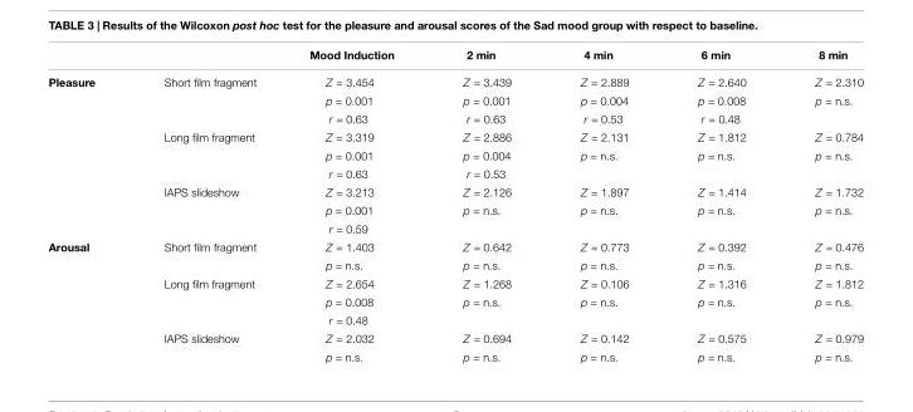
<table><thead><tr><td></td><td></td><td>Mood Induction</td><td>2 min</td><td>4 min</td><td>6 min</td><td>8 min</td></tr></thead><tbody><tr><td rowspan="9">Pleasure</td><td>Short film fragment</td><td>Z = 3.454</td><td>Z = 3.439</td><td>Z = 2.889</td><td>Z = 2.640</td><td>Z = 2.310</td></tr><tr><td></td><td>p = 0.001</td><td>p = 0.001</td><td>p = 0.004</td><td>p = 0.008</td><td>p = n.s.</td></tr><tr><td></td><td>r = 0.63</td><td>r = 0.63</td><td>r = 0.53</td><td>r = 0.48</td><td></td></tr><tr><td>Long film fragment</td><td>Z = 3.319</td><td>Z = 2.886</td><td>Z = 2.131</td><td>Z = 1.812</td><td>Z = 0.784</td></tr><tr><td></td><td>p = 0.001</td><td>p = 0.004</td><td>p = n.s.</td><td>p = n.s.</td><td>p = n.s.</td></tr><tr><td></td><td>r = 0.63</td><td>r = 0.53</td><td></td><td></td><td></td></tr><tr><td>IAPS slideshow</td><td>Z = 3.213</td><td>Z = 2.126</td><td>Z = 1.897</td><td>Z = 1.414</td><td>Z = 1.732</td></tr><tr><td></td><td>p = 0.001</td><td>p = n.s.</td><td>p = n.s.</td><td>p = n.s.</td><td>p = n.s.</td></tr><tr><td></td><td>r = 0.59</td><td></td><td></td><td></td><td></td></tr><tr><td rowspan="7">Arousal</td><td>Short film fragment</td><td>Z = 1.403</td><td>Z = 0.642</td><td>Z = 0.773</td><td>Z = 0.392</td><td>Z = 0.476</td></tr><tr><td></td><td>p = n.s.</td><td>p = n.s.</td><td>p = n.s.</td><td>p = n.s.</td><td>p = n.s.</td></tr><tr><td>Long film fragment</td><td>Z = 2.654</td><td>Z = 1.268</td><td>Z = 0.106</td><td>Z = 1.316</td><td>Z = 1.812</td></tr><tr><td></td><td>p = 0.008</td><td>p = n.s.</td><td>p = n.s.</td><td>p = n.s.</td><td>p = n.s.</td></tr><tr><td></td><td>r = 0.48</td><td></td><td></td><td></td><td></td></tr><tr><td>IAPS slideshow</td><td>Z = 2.032</td><td>Z = 0.694</td><td>Z = 0.142</td><td>Z = 0.575</td><td>Z = 0.979</td></tr><tr><td></td><td>p = n.s.</td><td>p = n.s.</td><td>p = n.s.</td><td>p = n.s.</td><td>p = n.s.</td></tr></tbody></table>